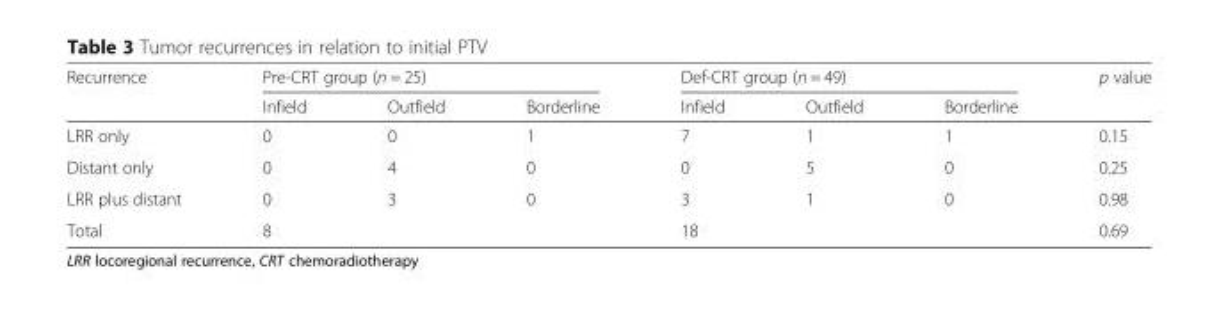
<table><thead><tr><td rowspan="2">Recurrence</td><td colspan="3">Pre-CRT group (n = 25)</td><td colspan="3">Def-CRT group (n = 49)</td><td rowspan="2">p value</td></tr><tr><td>Infield</td><td>Outfield</td><td>Borderline</td><td>Infield</td><td>Outfield</td><td>Borderline</td></tr></thead><tbody><tr><td>LRR only</td><td>0</td><td>0</td><td>1</td><td>7</td><td>1</td><td>1</td><td>0.15</td></tr><tr><td>Distant only</td><td>0</td><td>4</td><td>0</td><td>0</td><td>5</td><td>0</td><td>0.25</td></tr><tr><td>LRR plus distant</td><td>0</td><td>3</td><td>0</td><td>3</td><td>1</td><td>0</td><td>0.98</td></tr><tr><td>Total</td><td colspan="3">8</td><td colspan="3">18</td><td>0.69</td></tr></tbody></table>